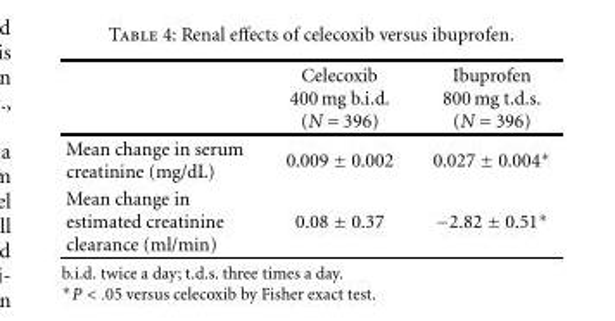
<table><thead><tr><td></td><td>Celecoxib 400 mg b.i.d. (N = 396)</td><td>Ibuprofen 800 mg t.d.s. (N = 396)</td></tr></thead><tbody><tr><td>Mean change in serum creatinine (mg/dL)</td><td>0.009 ± 0.002</td><td>0.027 ± 0.004∗</td></tr><tr><td>Mean change in estimated creatinine clearance (ml/min)</td><td>0.08 ± 0.37</td><td>−2.82 ± 0.51∗</td></tr></tbody></table>